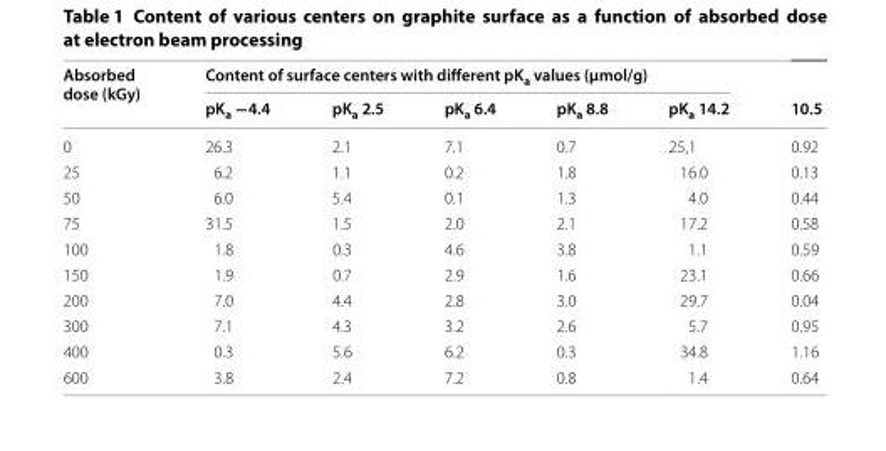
<table><thead><tr><td rowspan="2">Absorbed dose (kGy)</td><td colspan="5">Content of surface centers with different pK<sub>a</sub> values (μmol/g)</td><td rowspan="2">10.5</td></tr><tr><td>pK<sub>a</sub> −4.4</td><td>pK<sub>a</sub> 2.5</td><td>pK<sub>a</sub> 6.4</td><td>pK<sub>a</sub> 8.8</td><td>pK<sub>a</sub> 14.2</td></tr></thead><tbody><tr><td>0</td><td>26.3</td><td>2.1</td><td>7.1</td><td>0.7</td><td>25,1</td><td>0.92</td></tr><tr><td>25</td><td>6.2</td><td>1.1</td><td>0.2</td><td>1.8</td><td>16.0</td><td>0.13</td></tr><tr><td>50</td><td>6.0</td><td>5.4</td><td>0.1</td><td>1.3</td><td>4.0</td><td>0.44</td></tr><tr><td>75</td><td>31.5</td><td>1.5</td><td>2.0</td><td>2.1</td><td>17.2</td><td>0.58</td></tr><tr><td>100</td><td>1.8</td><td>0.3</td><td>4.6</td><td>3.8</td><td>1.1</td><td>0.59</td></tr><tr><td>150</td><td>1.9</td><td>0.7</td><td>2.9</td><td>1.6</td><td>23.1</td><td>0.66</td></tr><tr><td>200</td><td>7.0</td><td>4.4</td><td>2.8</td><td>3.0</td><td>29.7</td><td>0.04</td></tr><tr><td>300</td><td>7.1</td><td>4.3</td><td>3.2</td><td>2.6</td><td>5.7</td><td>0.95</td></tr><tr><td>400</td><td>0.3</td><td>5.6</td><td>6.2</td><td>0.3</td><td>34.8</td><td>1.16</td></tr><tr><td>600</td><td>3.8</td><td>2.4</td><td>7.2</td><td>0.8</td><td>1.4</td><td>0.64</td></tr></tbody></table>